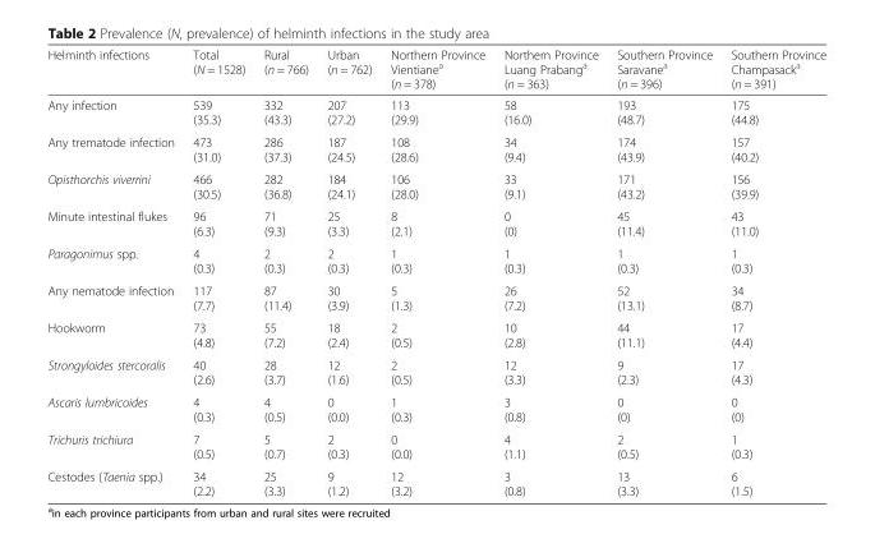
<table><thead><tr><td>Helminth infections</td><td>Total (N = 1528)</td><td>Rural (n = 766)</td><td>Urban (n = 762)</td><td>Northern Province Vientiane<sup>a</sup> (n = 378)</td><td>Northern Province Luang Prabang<sup>a</sup> (n = 363)</td><td>Southern Province Saravane<sup>a</sup> (n = 396)</td><td>Southern Province Champasack<sup>a</sup> (n = 391)</td></tr></thead><tbody><tr><td>Any infection</td><td>539 (35.3)</td><td>332 (43.3)</td><td>207 (27.2)</td><td>113 (29.9)</td><td>58 (16.0)</td><td>193 (48.7)</td><td>175 (44.8)</td></tr><tr><td>Any trematode infection</td><td>473 (31.0)</td><td>286 (37.3)</td><td>187 (24.5)</td><td>108 (28.6)</td><td>34 (9.4)</td><td>174 (43.9)</td><td>157 (40.2)</td></tr><tr><td>Opisthorchis viverrini</td><td>466 (30.5)</td><td>282 (36.8)</td><td>184 (24.1)</td><td>106 (28.0)</td><td>33 (9.1)</td><td>171 (43.2)</td><td>156 (39.9)</td></tr><tr><td>Minute intestinal flukes</td><td>96 (6.3)</td><td>71 (9.3)</td><td>25 (3.3)</td><td>8 (2.1)</td><td>0 (0)</td><td>45 (11.4)</td><td>43 (11.0)</td></tr><tr><td>Paragonimus spp.</td><td>4 (0.3)</td><td>2 (0.3)</td><td>2 (0.3)</td><td>1 (0.3)</td><td>1 (0.3)</td><td>1 (0.3)</td><td>1 (0.3)</td></tr><tr><td>Any nematode infection</td><td>117 (7.7)</td><td>87 (11.4)</td><td>30 (3.9)</td><td>5 (1.3)</td><td>26 (7.2)</td><td>52 (13.1)</td><td>34 (8.7)</td></tr><tr><td>Hookworm</td><td>73 (4.8)</td><td>55 (7.2)</td><td>18 (2.4)</td><td>2 (0.5)</td><td>10 (2.8)</td><td>44 (11.1)</td><td>17 (4.4)</td></tr><tr><td>Strongyloides stercoralis</td><td>40 (2.6)</td><td>28 (3.7)</td><td>12 (1.6)</td><td>2 (0.5)</td><td>12 (3.3)</td><td>9 (2.3)</td><td>17 (4.3)</td></tr><tr><td>Ascaris lumbricoides</td><td>4 (0.3)</td><td>4 (0.5)</td><td>0 (0.0)</td><td>1 (0.3)</td><td>3 (0.8)</td><td>0 (0)</td><td>0 (0)</td></tr><tr><td>Trichuris trichiura</td><td>7 (0.5)</td><td>5 (0.7)</td><td>2 (0.3)</td><td>0 (0.0)</td><td>4 (1.1)</td><td>2 (0.5)</td><td>1 (0.3)</td></tr><tr><td>Cestodes (Taenia spp.)</td><td>34 (2.2)</td><td>25 (3.3)</td><td>9 (1.2)</td><td>12 (3.2)</td><td>3 (0.8)</td><td>13 (3.3)</td><td>6 (1.5)</td></tr></tbody></table>